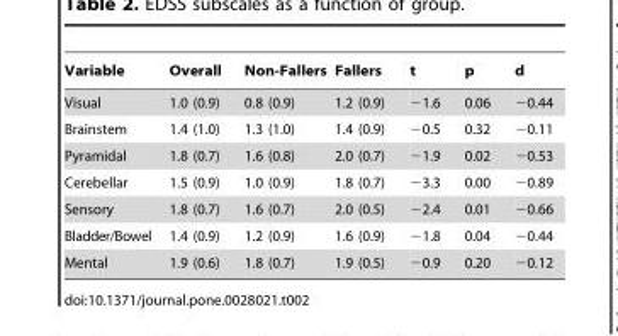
<table><thead><tr><td>Variable</td><td>Overall</td><td>Non-Fallers</td><td>Fallers</td><td>t</td><td>p</td><td>d</td></tr></thead><tbody><tr><td>Visual</td><td>1.0 (0.9)</td><td>0.8 (0.9)</td><td>1.2 (0.9)</td><td>−1.6</td><td>0.06</td><td>−0.44</td></tr><tr><td>Brainstem</td><td>1.4 (1.0)</td><td>1.3 (1.0)</td><td>1.4 (0.9)</td><td>−0.5</td><td>0.32</td><td>−0.11</td></tr><tr><td>Pyramidal</td><td>1.8 (0.7)</td><td>1.6 (0.8)</td><td>2.0 (0.7)</td><td>−1.9</td><td>0.02</td><td>−0.53</td></tr><tr><td>Cerebellar</td><td>1.5 (0.9)</td><td>1.0 (0.9)</td><td>1.8 (0.7)</td><td>−3.3</td><td>0.00</td><td>−0.89</td></tr><tr><td>Sensory</td><td>1.8 (0.7)</td><td>1.6 (0.7)</td><td>2.0 (0.5)</td><td>−2.4</td><td>0.01</td><td>−0.66</td></tr><tr><td>Bladder/Bowel</td><td>1.4 (0.9)</td><td>1.2 (0.9)</td><td>1.6 (0.9)</td><td>−1.8</td><td>0.04</td><td>−0.44</td></tr><tr><td>Mental</td><td>1.9 (0.6)</td><td>1.8 (0.7)</td><td>1.9 (0.5)</td><td>−0.9</td><td>0.20</td><td>−0.12</td></tr></tbody></table>